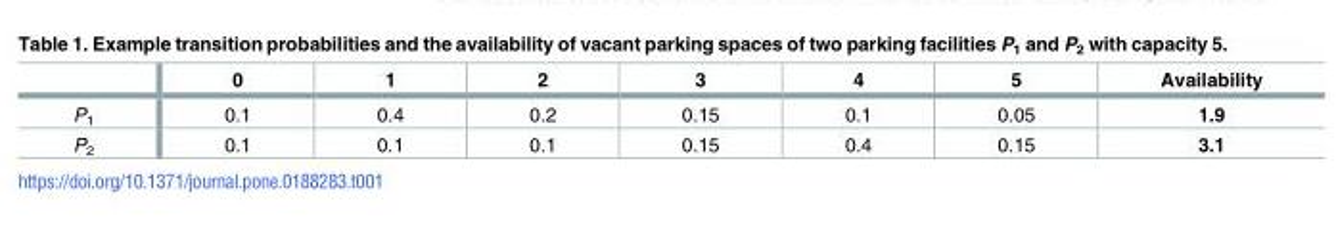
<table><thead><tr><td></td><td>0</td><td>1</td><td>2</td><td>3</td><td>4</td><td>5</td><td>Availability</td></tr></thead><tbody><tr><td>P<sub>1</sub></td><td>0.1</td><td>0.4</td><td>0.2</td><td>0.15</td><td>0.1</td><td>0.05</td><td>1.9</td></tr><tr><td>P<sub>2</sub></td><td>0.1</td><td>0.1</td><td>0.1</td><td>0.15</td><td>0.4</td><td>0.15</td><td>3.1</td></tr></tbody></table>